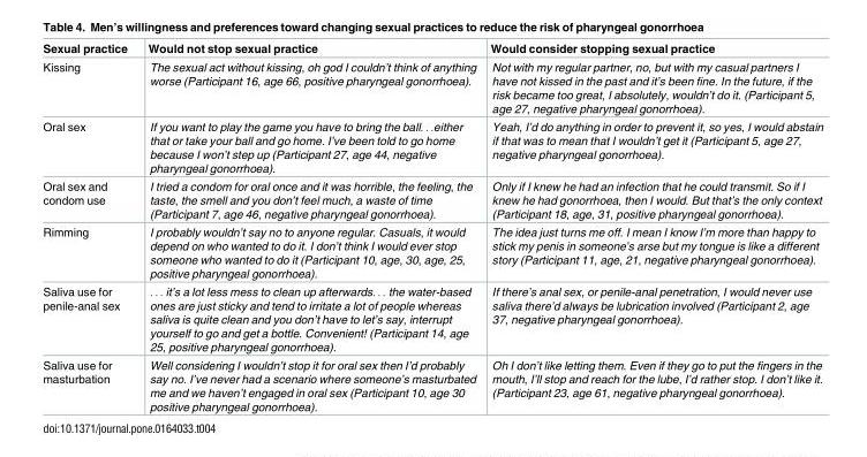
<table><thead><tr><td>Sexual practice</td><td>Would not stop sexual practice</td><td>Would consider stopping sexual practice</td></tr></thead><tbody><tr><td>Kissing</td><td>The sexual act without kissing, oh god I couldn’t think of anything worse (Participant 16, age 66, positive pharyngeal gonorrhoea).</td><td>Not with my regular partner, no, but with my casual partners I have not kissed in the past and it’s been fine. In the future, if the risk became too great, I absolutely, wouldn’t do it. (Participant 5, age 27, negative pharyngeal gonorrhoea).</td></tr><tr><td>Oral sex</td><td>If you want to play the game you have to bring the ball. . .either that or take your ball and go home. I’ve been told to go home because I won’t step up (Participant 27, age 44, negative pharyngeal gonorrhoea).</td><td>Yeah, I’d do anything in order to prevent it, so yes, I would abstain if that was to mean that I wouldn’t get it (Participant 5, age 27, negative pharyngeal gonorrhoea).</td></tr><tr><td>Oral sex and condom use</td><td>I tried a condom for oral once and it was horrible, the feeling, the taste, the smell and you don’t feel much, a waste of time (Participant 7, age 46, negative pharyngeal gonorrhoea).</td><td>Only if I knew he had an infection that he could transmit. So if I knew he had gonorrhoea, then I would. But that’s the only context (Participant 18, age, 31, positive pharyngeal gonorrhoea).</td></tr><tr><td>Rimming</td><td>I probably wouldn’t say no to anyone regular. Casuals, it would depend on who wanted to do it. I don’t think I would ever stop someone who wanted to do it (Participant 10, age, 30, age, 25, positive pharyngeal gonorrhoea).</td><td>The idea just turns me off. I mean I know I’m more than happy to stick my penis in someone’s arse but my tongue is like a different story (Participant 11, age, 21, negative pharyngeal gonorrhoea).</td></tr><tr><td>Saliva use for penile-anal sex</td><td>. . . it’s a lot less mess to clean up afterwards. . . the water-based ones are just sticky and tend to irritate a lot of people whereas saliva is quite clean and you don’t have to let’s say, interrupt yourself to go and get a bottle. Convenient! (Participant 14, age 25, positive pharyngeal gonorrhoea).</td><td>If there’s anal sex, or penile-anal penetration, I would never use saliva there’d always be lubrication involved (Participant 2, age 37, negative pharyngeal gonorrhoea).</td></tr><tr><td>Saliva use for masturbation</td><td>Well considering I wouldn’t stop it for oral sex then I’d probably say no. I’ve never had a scenario where someone’s masturbated me and we haven’t engaged in oral sex (Participant 10, age 30 positive pharyngeal gonorrhoea).</td><td>Oh I don’t like letting them. Even if they go to put the fingers in the mouth, I’ll stop and reach for the lube, I’d rather stop. I don’t like it. (Participant 23, age 61, negative pharyngeal gonorrhoea).</td></tr></tbody></table>